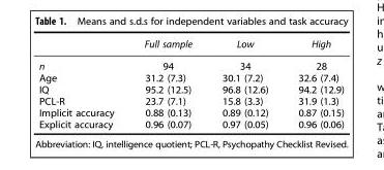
<table><thead><tr><td></td><td>Full sample</td><td>Low</td><td>High</td></tr></thead><tbody><tr><td>n</td><td>94</td><td>34</td><td>28</td></tr><tr><td>Age</td><td>31.2 (7.3)</td><td>30.1 (7.2)</td><td>32.6 (7.4)</td></tr><tr><td>IQ</td><td>95.2 (12.5)</td><td>96.8 (12.6)</td><td>94.2 (12.9)</td></tr><tr><td>PCL-R</td><td>23.7 (7.1)</td><td>15.8 (3.3)</td><td>31.9 (1.3)</td></tr><tr><td>Implicit accuracy</td><td>0.88 (0.13)</td><td>0.89 (0.12)</td><td>0.87 (0.15)</td></tr><tr><td>Explicit accuracy</td><td>0.96 (0.07)</td><td>0.97 (0.05)</td><td>0.96 (0.06)</td></tr></tbody></table>